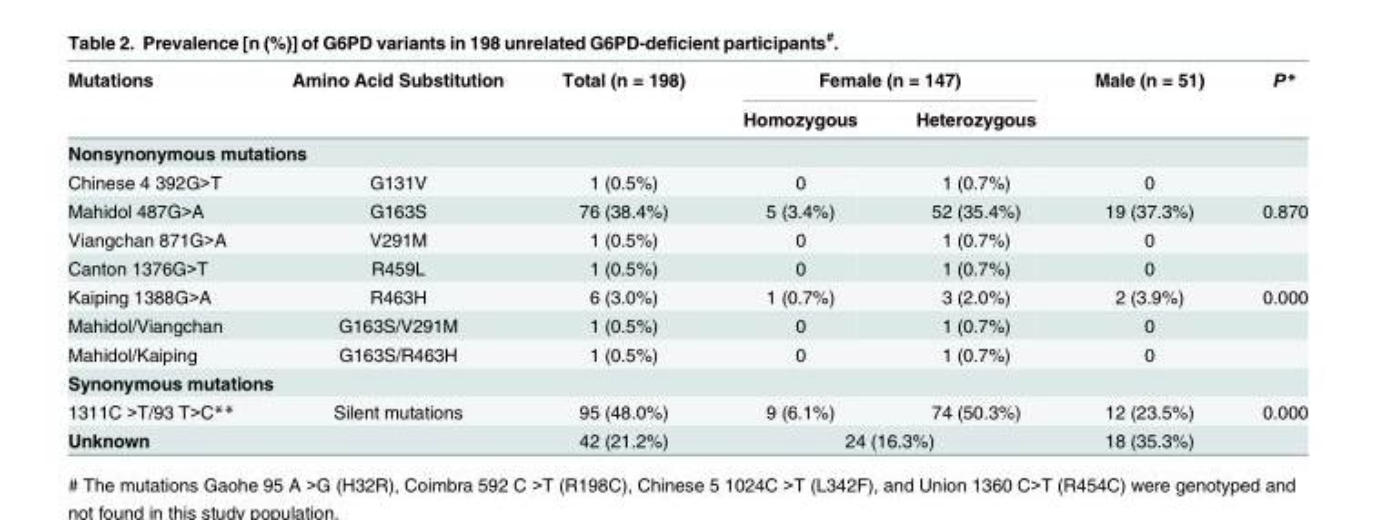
<table><thead><tr><td rowspan="2">Mutations</td><td rowspan="2">Amino Acid Substitution</td><td rowspan="2">Total (n = 198)</td><td colspan="2">Female (n = 147)</td><td rowspan="2">Male (n = 51)</td><td rowspan="2">P*</td></tr><tr><td>Homozygous</td><td>Heterozygous</td></tr></thead><tbody><tr><td colspan="7">Nonsynonymous mutations</td></tr><tr><td>Chinese 4 392G&gt;T</td><td>G131V</td><td>1 (0.5%)</td><td>0</td><td>1 (0.7%)</td><td>0</td><td></td></tr><tr><td>Mahidol 487G&gt;A</td><td>G163S</td><td>76 (38.4%)</td><td>5 (3.4%)</td><td>52 (35.4%)</td><td>19 (37.3%)</td><td>0.870</td></tr><tr><td>Viangchan 871G&gt;A</td><td>V291M</td><td>1 (0.5%)</td><td>0</td><td>1 (0.7%)</td><td>0</td><td></td></tr><tr><td>Canton 1376G&gt;T</td><td>R459L</td><td>1 (0.5%)</td><td>0</td><td>1 (0.7%)</td><td>0</td><td></td></tr><tr><td>Kaiping 1388G&gt;A</td><td>R463H</td><td>6 (3.0%)</td><td>1 (0.7%)</td><td>3 (2.0%)</td><td>2 (3.9%)</td><td>0.000</td></tr><tr><td>Mahidol/Viangchan</td><td>G163S/V291M</td><td>1 (0.5%)</td><td>0</td><td>1 (0.7%)</td><td>0</td><td></td></tr><tr><td>Mahidol/Kaiping</td><td>G163S/R463H</td><td>1 (0.5%)</td><td>0</td><td>1 (0.7%)</td><td>0</td><td></td></tr><tr><td colspan="7">Synonymous mutations</td></tr><tr><td>1311C &gt;T/93 T&gt;C**</td><td>Silent mutations</td><td>95 (48.0%)</td><td>9 (6.1%)</td><td>74 (50.3%)</td><td>12 (23.5%)</td><td>0.000</td></tr><tr><td>Unknown</td><td></td><td>42 (21.2%)</td><td colspan="2">24 (16.3%)</td><td>18 (35.3%)</td><td></td></tr></tbody></table>